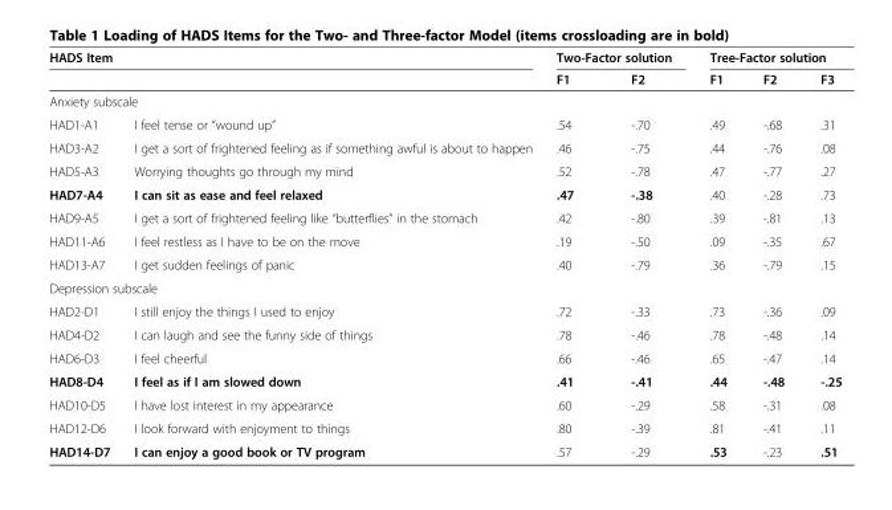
<table><thead><tr><td colspan="2">HADS Item</td><td colspan="2">Two-Factor solution</td><td colspan="3">Tree-Factor solution</td></tr><tr><td></td><td></td><td>F1</td><td>F2</td><td>F1</td><td>F2</td><td>F3</td></tr></thead><tbody><tr><td colspan="7">Anxiety subscale</td></tr><tr><td>HAD1-A1</td><td>I feel tense or “wound up”</td><td>.54</td><td>-.70</td><td>.49</td><td>-.68</td><td>.31</td></tr><tr><td>HAD3-A2</td><td>I get a sort of frightened feeling as if something awful is about to happen</td><td>.46</td><td>-.75</td><td>.44</td><td>-.76</td><td>.08</td></tr><tr><td>HAD5-A3</td><td>Worrying thoughts go through my mind</td><td>.52</td><td>-.78</td><td>.47</td><td>-.77</td><td>.27</td></tr><tr><td>HAD7-A4</td><td>I can sit as ease and feel relaxed</td><td>.47</td><td>-.38</td><td>.40</td><td>-.28</td><td>.73</td></tr><tr><td>HAD9-A5</td><td>I get a sort of frightened feeling like “butterflies” in the stomach</td><td>.42</td><td>-.80</td><td>.39</td><td>-.81</td><td>.13</td></tr><tr><td>HAD11-A6</td><td>I feel restless as I have to be on the move</td><td>.19</td><td>-.50</td><td>.09</td><td>-.35</td><td>.67</td></tr><tr><td>HAD13-A7</td><td>I get sudden feelings of panic</td><td>.40</td><td>-.79</td><td>.36</td><td>-.79</td><td>.15</td></tr><tr><td colspan="7">Depression subscale</td></tr><tr><td>HAD2-D1</td><td>I still enjoy the things I used to enjoy</td><td>.72</td><td>-.33</td><td>.73</td><td>-.36</td><td>.09</td></tr><tr><td>HAD4-D2</td><td>I can laugh and see the funny side of things</td><td>.78</td><td>-.46</td><td>.78</td><td>-.48</td><td>.14</td></tr><tr><td>HAD6-D3</td><td>I feel cheerful</td><td>.66</td><td>-.46</td><td>.65</td><td>-.47</td><td>.14</td></tr><tr><td>HAD8-D4</td><td>I feel as if I am slowed down</td><td>.41</td><td>-.41</td><td>.44</td><td>-.48</td><td>-.25</td></tr><tr><td>HAD10-D5</td><td>I have lost interest in my appearance</td><td>.60</td><td>-.29</td><td>.58</td><td>-.31</td><td>.08</td></tr><tr><td>HAD12-D6</td><td>I look forward with enjoyment to things</td><td>.80</td><td>-.39</td><td>.81</td><td>-.41</td><td>.11</td></tr><tr><td>HAD14-D7</td><td>I can enjoy a good book or TV program</td><td>.57</td><td>-.29</td><td>.53</td><td>-.23</td><td>.51</td></tr></tbody></table>